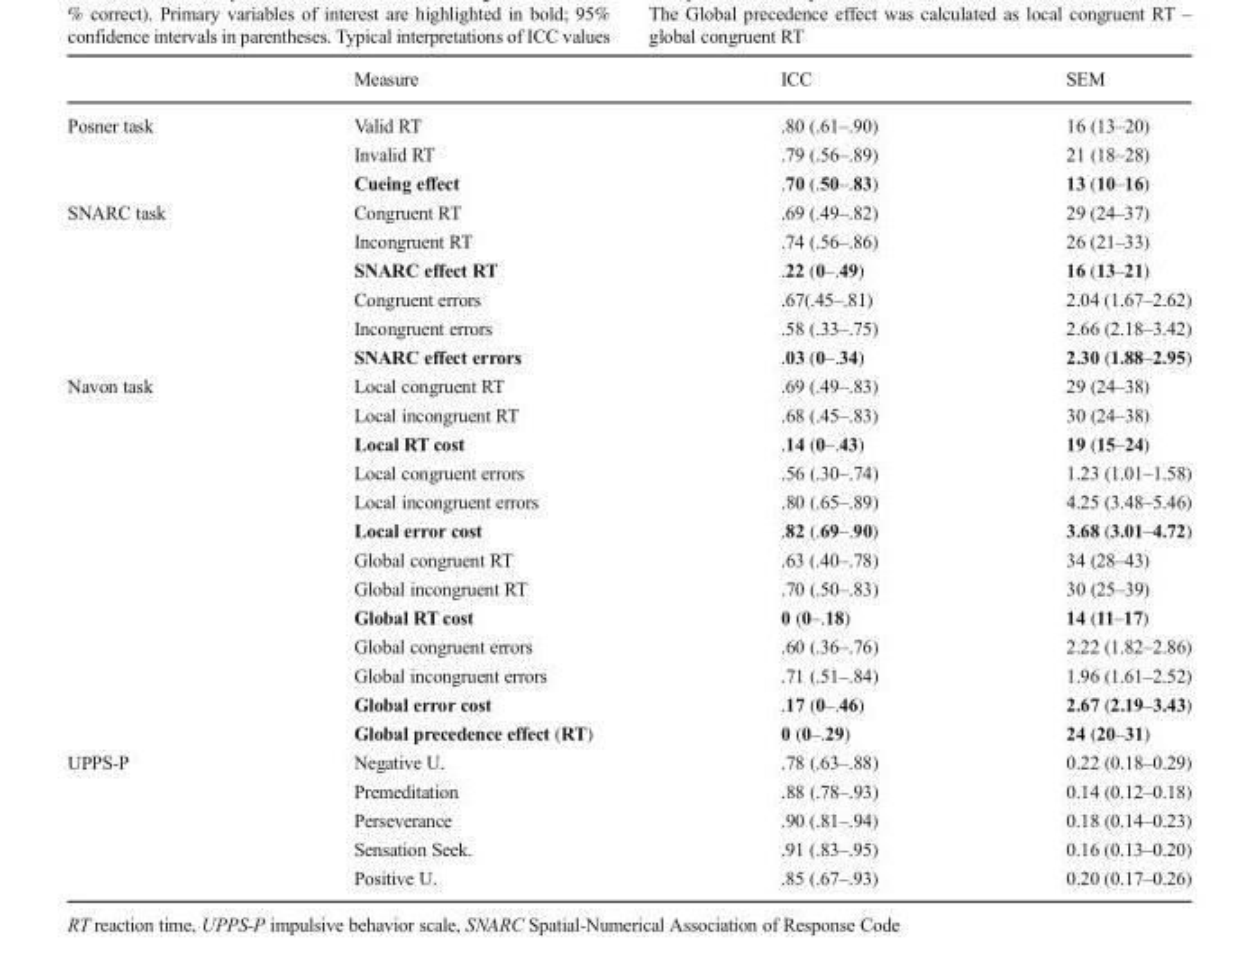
<table><thead><tr><td></td><td>Measure</td><td>ICC</td><td>SEM</td></tr></thead><tbody><tr><td rowspan="3">Posner task</td><td>Valid RT</td><td>.80 (.61–.90)</td><td>16 (13–20)</td></tr><tr><td>Invalid RT</td><td>.79 (.56–.89)</td><td>21 (18–28)</td></tr><tr><td>Cueing effect</td><td>.70 (.50–.83)</td><td>13 (10–16)</td></tr><tr><td rowspan="6">SNARC task</td><td>Congruent RT</td><td>.69 (.49–.82)</td><td>29 (24–37)</td></tr><tr><td>Incongruent RT</td><td>.74 (.56–.86)</td><td>26 (21–33)</td></tr><tr><td>SNARC effect RT</td><td>.22 (0–.49)</td><td>16 (13–21)</td></tr><tr><td>Congruent errors</td><td>.67(.45–.81)</td><td>2.04 (1.67–2.62)</td></tr><tr><td>Incongruent errors</td><td>.58 (.33–.75)</td><td>2.66 (2.18–3.42)</td></tr><tr><td>SNARC effect errors</td><td>.03 (0–.34)</td><td>2.30 (1.88–2.95)</td></tr><tr><td rowspan="13">Navon task</td><td>Local congruent RT</td><td>.69 (.49–.83)</td><td>29 (24–38)</td></tr><tr><td>Local incongruent RT</td><td>.68 (.45–.83)</td><td>30 (24–38)</td></tr><tr><td>Local RT cost</td><td>.14 (0–.43)</td><td>19 (15–24)</td></tr><tr><td>Local congruent errors</td><td>.56 (.30–.74)</td><td>1.23 (1.01–1.58)</td></tr><tr><td>Local incongruent errors</td><td>.80 (.65–.89)</td><td>4.25 (3.48–5.46)</td></tr><tr><td>Local error cost</td><td>.82 (.69–.90)</td><td>3.68 (3.01–4.72)</td></tr><tr><td>Global congruent RT</td><td>.63 (.40–.78)</td><td>34 (28–43)</td></tr><tr><td>Global incongruent RT</td><td>.70 (.50–.83)</td><td>30 (25–39)</td></tr><tr><td>Global RT cost</td><td>0 (0–.18)</td><td>14 (11–17)</td></tr><tr><td>Global congruent errors</td><td>.60 (.36–.76)</td><td>2.22 (1.82–2.86)</td></tr><tr><td>Global incongruent errors</td><td>.71 (.51–.84)</td><td>1.96 (1.61–2.52)</td></tr><tr><td>Global error cost</td><td>.17 (0–.46)</td><td>2.67 (2.19–3.43)</td></tr><tr><td>Global precedence effect (RT)</td><td>0 (0–.29)</td><td>24 (20–31)</td></tr><tr><td rowspan="5">UPPS-P</td><td>Negative U.</td><td>.78 (.63–.88)</td><td>0.22 (0.18–0.29)</td></tr><tr><td>Premeditation</td><td>.88 (.78–.93)</td><td>0.14 (0.12–0.18)</td></tr><tr><td>Perseverance</td><td>.90 (.81–.94)</td><td>0.18 (0.14–0.23)</td></tr><tr><td>Sensation Seek.</td><td>.91 (.83–.95)</td><td>0.16 (0.13–0.20)</td></tr><tr><td>Positive U.</td><td>.85 (.67–.93)</td><td>0.20 (0.17–0.26)</td></tr></tbody></table>